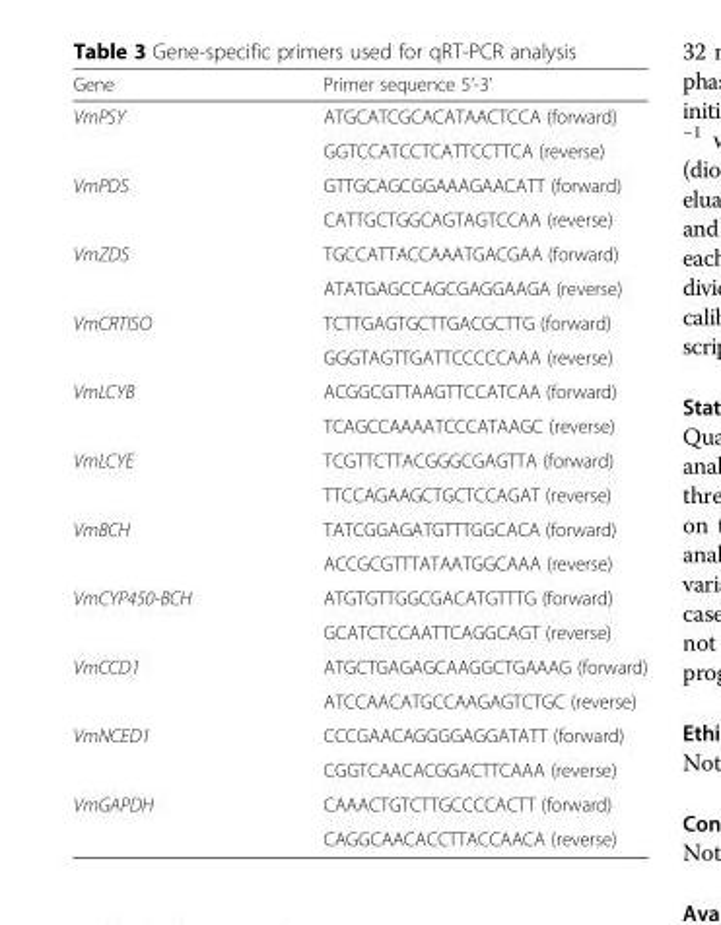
<table><thead><tr><td>Gene</td><td>Primer sequence 5’-3’</td></tr></thead><tbody><tr><td rowspan="2">VmPSY</td><td>ATGCATCGCACATAACTCCA (forward)</td></tr><tr><td>GGTCCATCCTCATTCCTTCA (reverse)</td></tr><tr><td rowspan="2">VmPDS</td><td>GTTGCAGCGGAAAGAACATT (forward)</td></tr><tr><td>CATTGCTGGCAGTAGTCCAA (reverse)</td></tr><tr><td rowspan="2">VmZDS</td><td>TGCCATTACCAAATGACGAA (forward)</td></tr><tr><td>ATATGAGCCAGCGAGGAAGA (reverse)</td></tr><tr><td rowspan="2">VmCRTISO</td><td>TCTTGAGTGCTTGACGCTTG (forward)</td></tr><tr><td>GGGTAGTTGATTCCCCCAAA (reverse)</td></tr><tr><td rowspan="2">VmLCYB</td><td>ACGGCGTTAAGTTCCATCAA (forward)</td></tr><tr><td>TCAGCCAAAATCCCATAAGC (reverse)</td></tr><tr><td rowspan="2">VmLCYE</td><td>TCGTTCTTACGGGCGAGTTA (forward)</td></tr><tr><td>TTCCAGAAGCTGCTCCAGAT (reverse)</td></tr><tr><td rowspan="2">VmBCH</td><td>TATCGGAGATGTTTGGCACA (forward)</td></tr><tr><td>ACCGCGTTTATAATGGCAAA (reverse)</td></tr><tr><td rowspan="2">VmCYP450-BCH</td><td>ATGTGTTGGCGACATGTTTG (forward)</td></tr><tr><td>GCATCTCCAATTCAGGCAGT (reverse)</td></tr><tr><td rowspan="2">VmCCD1</td><td>ATGCTGAGAGCAAGGCTGAAAG (forward)</td></tr><tr><td>ATCCAACATGCCAAGAGTCTGC (reverse)</td></tr><tr><td rowspan="2">VmNCED1</td><td>CCCGAACAGGGGAGGATATT (forward)</td></tr><tr><td>CGGTCAACACGGACTTCAAA (reverse)</td></tr><tr><td rowspan="2">VmGAPDH</td><td>CAAACTGTCTTGCCCCACTT (forward)</td></tr><tr><td>CAGGCAACACCTTACCAACA (reverse)</td></tr></tbody></table>